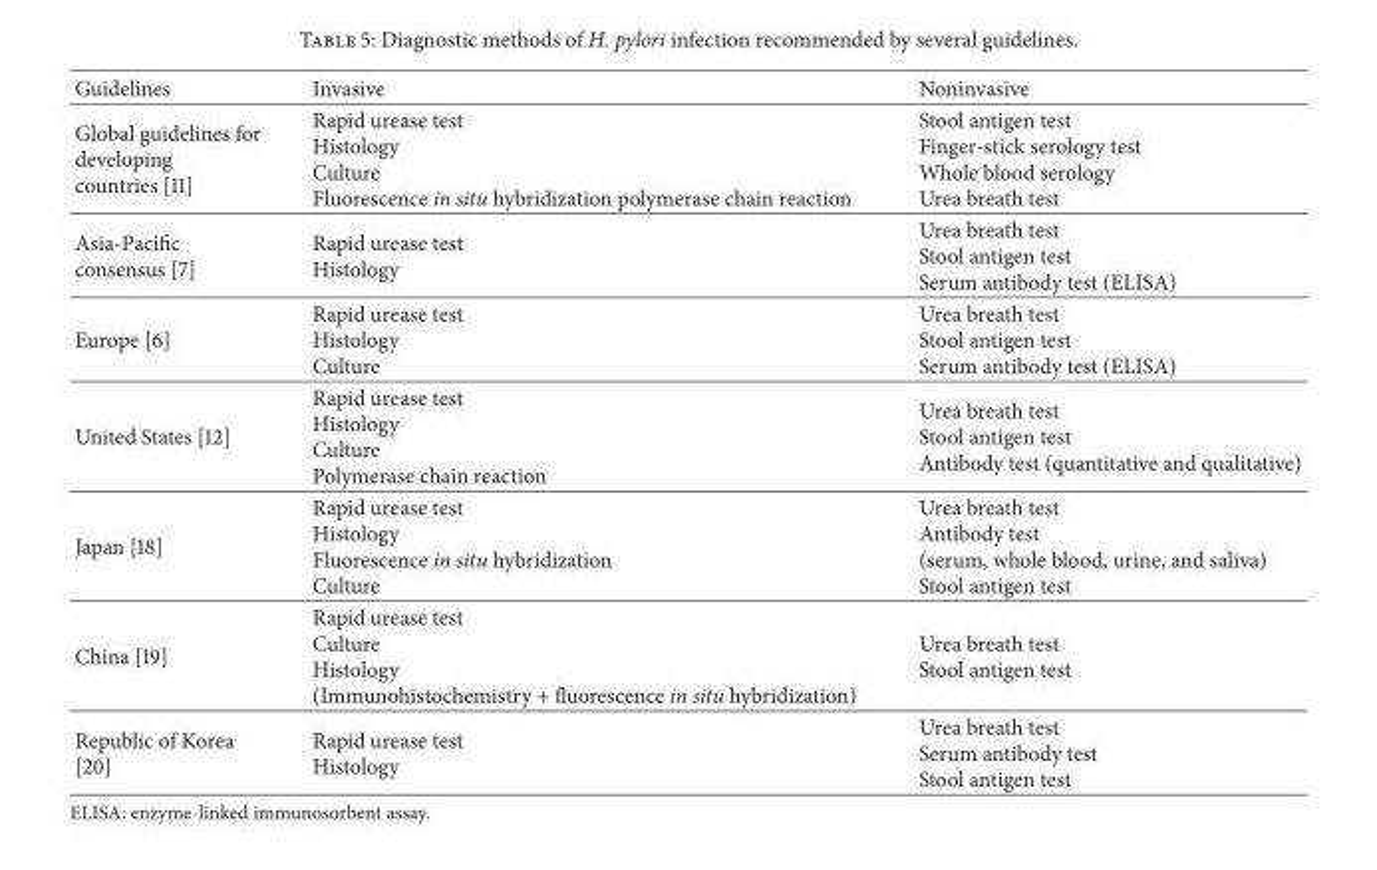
<table><thead><tr><td>Guidelines</td><td>Invasive</td><td>Noninvasive</td></tr></thead><tbody><tr><td>Global guidelines for developing countries [11]</td><td>Rapid urease test Histology Culture Fluorescence in situ hybridization polymerase chain reaction</td><td>Stool antigen test Finger-stick serology test Whole blood serology Urea breath test</td></tr><tr><td>Asia-Pacific consensus [7]</td><td>Rapid urease test Histology</td><td>Urea breath test Stool antigen test Serum antibody test (ELISA)</td></tr><tr><td>Europe [6]</td><td>Rapid urease test Histology Culture</td><td>Urea breath test Stool antigen test Serum antibody test (ELISA)</td></tr><tr><td>United States [12]</td><td>Rapid urease test Histology Culture Polymerase chain reaction</td><td>Urea breath test Stool antigen test Antibody test (quantitative and qualitative)</td></tr><tr><td>Japan [18]</td><td>Rapid urease test Histology Fluorescence in situ hybridization Culture</td><td>Urea breath test Antibody test (serum, whole blood, urine, and saliva) Stool antigen test</td></tr><tr><td>China [19]</td><td>Rapid urease test Culture Histology (Immunohistochemistry + fluorescence in situ hybridization)</td><td>Urea breath test Stool antigen test</td></tr><tr><td>Republic of Korea [20]</td><td>Rapid urease test Histology</td><td>Urea breath test Serum antibody test Stool antigen test</td></tr></tbody></table>